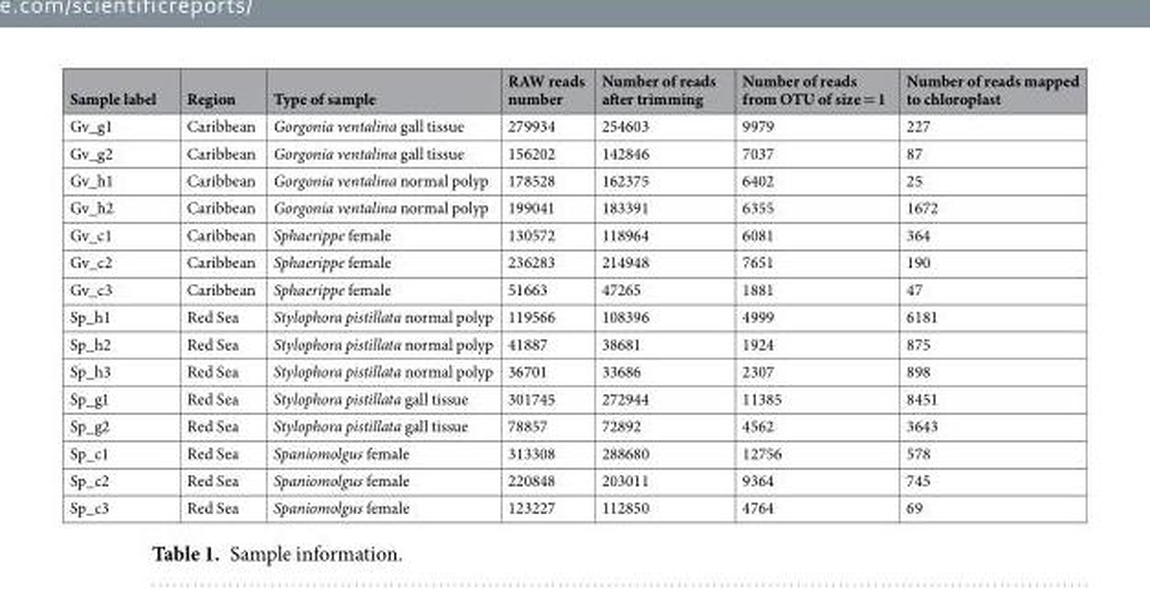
<table><thead><tr><td>Sample label</td><td>Region</td><td>Type of sample</td><td>RAW reads number</td><td>Number of reads after trimming</td><td>Number of reads from OTU of size = 1</td><td>Number of reads mapped to chloroplast</td></tr></thead><tbody><tr><td>Gv_g1</td><td>Caribbean</td><td>Gorgonia ventalina gall tissue</td><td>279934</td><td>254603</td><td>9979</td><td>227</td></tr><tr><td>Gv_g2</td><td>Caribbean</td><td>Gorgonia ventalina gall tissue</td><td>156202</td><td>142846</td><td>7037</td><td>87</td></tr><tr><td>Gv_h1</td><td>Caribbean</td><td>Gorgonia ventalina normal polyp</td><td>178528</td><td>162375</td><td>6402</td><td>25</td></tr><tr><td>Gv_h2</td><td>Caribbean</td><td>Gorgonia ventalina normal polyp</td><td>199041</td><td>183391</td><td>6355</td><td>1672</td></tr><tr><td>Gv_c1</td><td>Caribbean</td><td>Sphaerippe female</td><td>130572</td><td>118964</td><td>6081</td><td>364</td></tr><tr><td>Gv_c2</td><td>Caribbean</td><td>Sphaerippe female</td><td>236283</td><td>214948</td><td>7651</td><td>190</td></tr><tr><td>Gv_c3</td><td>Caribbean</td><td>Sphaerippe female</td><td>51663</td><td>47265</td><td>1881</td><td>47</td></tr><tr><td>Sp_h1</td><td>Red Sea</td><td>Stylophora pistillata normal polyp</td><td>119566</td><td>108396</td><td>4999</td><td>6181</td></tr><tr><td>Sp_h2</td><td>Red Sea</td><td>Stylophora pistillata normal polyp</td><td>41887</td><td>38681</td><td>1924</td><td>875</td></tr><tr><td>Sp_h3</td><td>Red Sea</td><td>Stylophora pistillata normal polyp</td><td>36701</td><td>33686</td><td>2307</td><td>898</td></tr><tr><td>Sp_g1</td><td>Red Sea</td><td>Stylophora pistillata gall tissue</td><td>301745</td><td>272944</td><td>11385</td><td>8451</td></tr><tr><td>Sp_g2</td><td>Red Sea</td><td>Stylophora pistillata gall tissue</td><td>78857</td><td>72892</td><td>4562</td><td>3643</td></tr><tr><td>Sp_c1</td><td>Red Sea</td><td>Spaniomolgus female</td><td>313308</td><td>288680</td><td>12756</td><td>578</td></tr><tr><td>Sp_c2</td><td>Red Sea</td><td>Spaniomolgus female</td><td>220848</td><td>203011</td><td>9364</td><td>745</td></tr><tr><td>Sp_c3</td><td>Red Sea</td><td>Spaniomolgus female</td><td>123227</td><td>112850</td><td>4764</td><td>69</td></tr></tbody></table>